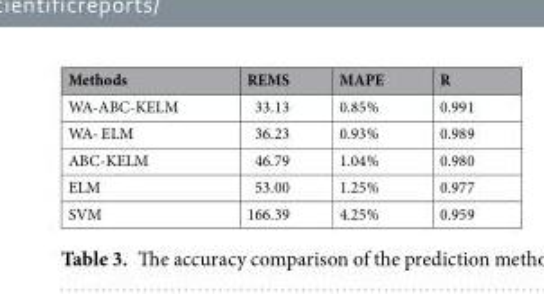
<table><thead><tr><td>Methods</td><td>REMS</td><td>MAPE</td><td>R</td></tr></thead><tbody><tr><td>WA-ABC-KELM</td><td>33.13</td><td>0.85%</td><td>0.991</td></tr><tr><td>WA- ELM</td><td>36.23</td><td>0.93%</td><td>0.989</td></tr><tr><td>ABC-KELM</td><td>46.79</td><td>1.04%</td><td>0.980</td></tr><tr><td>ELM</td><td>53.00</td><td>1.25%</td><td>0.977</td></tr><tr><td>SVM</td><td>166.39</td><td>4.25%</td><td>0.959</td></tr></tbody></table>